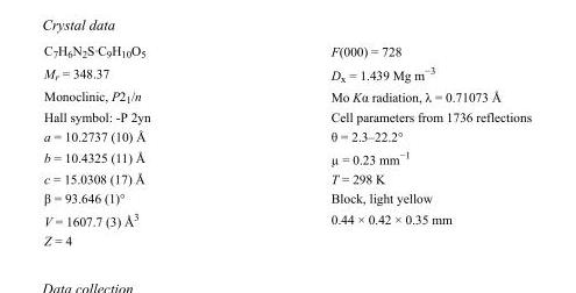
<table><tbody><tr><td>C<sub>7</sub>H<sub>6</sub>N<sub>2</sub>S·C<sub>9</sub>H<sub>10</sub>O<sub>5</sub></td><td>F(000) = 728</td></tr><tr><td>M<sub>r</sub> = 348.37</td><td>D<sub>x</sub> = 1.439 Mg m<sup>−3</sup></td></tr><tr><td>Monoclinic, P2<sub>1</sub>/n</td><td>Mo Kα radiation, λ = 0.71073 Å</td></tr><tr><td>Hall symbol: -P 2yn</td><td>Cell parameters from 1736 reflections</td></tr><tr><td>a = 10.2737 (10) Å</td><td>θ = 2.3–22.2°</td></tr><tr><td>b = 10.4325 (11) Å</td><td>µ = 0.23 mm<sup>−1</sup></td></tr><tr><td>c = 15.0308 (17) Å</td><td>T = 298 K</td></tr><tr><td>β = 93.646 (1)°</td><td>Block, light yellow</td></tr><tr><td>V = 1607.7 (3) Å<sup>3</sup></td><td>0.44 × 0.42 × 0.35 mm</td></tr><tr><td>Z = 4</td><td></td></tr></tbody></table>